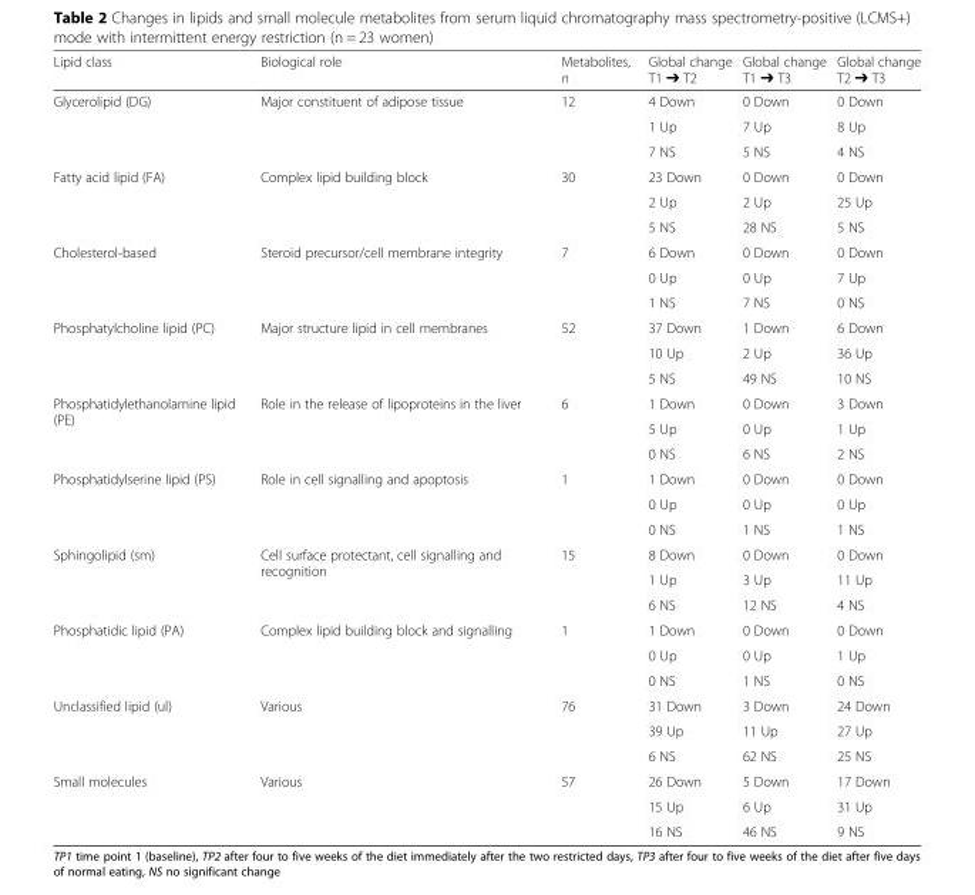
<table><thead><tr><td>Lipid class</td><td>Biological role</td><td>Metabolites, n</td><td>Global change T1 ➔ T2</td><td>Global change T1 ➔ T3</td><td>Global change T2 ➔ T3</td></tr></thead><tbody><tr><td rowspan="3">Glycerolipid (DG)</td><td rowspan="3">Major constituent of adipose tissue</td><td rowspan="3">12</td><td>4 Down</td><td>0 Down</td><td>0 Down</td></tr><tr><td>1 Up</td><td>7 Up</td><td>8 Up</td></tr><tr><td>7 NS</td><td>5 NS</td><td>4 NS</td></tr><tr><td rowspan="3">Fatty acid lipid (FA)</td><td rowspan="3">Complex lipid building block</td><td rowspan="3">30</td><td>23 Down</td><td>0 Down</td><td>0 Down</td></tr><tr><td>2 Up</td><td>2 Up</td><td>25 Up</td></tr><tr><td>5 NS</td><td>28 NS</td><td>5 NS</td></tr><tr><td rowspan="3">Cholesterol-based</td><td rowspan="3">Steroid precursor/cell membrane integrity</td><td rowspan="3">7</td><td>6 Down</td><td>0 Down</td><td>0 Down</td></tr><tr><td>0 Up</td><td>0 Up</td><td>7 Up</td></tr><tr><td>1 NS</td><td>7 NS</td><td>0 NS</td></tr><tr><td rowspan="3">Phosphatylcholine lipid (PC)</td><td rowspan="3">Major structure lipid in cell membranes</td><td rowspan="3">52</td><td>37 Down</td><td>1 Down</td><td>6 Down</td></tr><tr><td>10 Up</td><td>2 Up</td><td>36 Up</td></tr><tr><td>5 NS</td><td>49 NS</td><td>10 NS</td></tr><tr><td rowspan="3">Phosphatidylethanolamine lipid (PE)</td><td rowspan="3">Role in the release of lipoproteins in the liver</td><td rowspan="3">6</td><td>1 Down</td><td>0 Down</td><td>3 Down</td></tr><tr><td>5 Up</td><td>0 Up</td><td>1 Up</td></tr><tr><td>0 NS</td><td>6 NS</td><td>2 NS</td></tr><tr><td rowspan="3">Phosphatidylserine lipid (PS)</td><td rowspan="3">Role in cell signalling and apoptosis</td><td rowspan="3">1</td><td>1 Down</td><td>0 Down</td><td>0 Down</td></tr><tr><td>0 Up</td><td>0 Up</td><td>0 Up</td></tr><tr><td>0 NS</td><td>1 NS</td><td>1 NS</td></tr><tr><td rowspan="3">Sphingolipid (sm)</td><td rowspan="3">Cell surface protectant, cell signalling and recognition</td><td rowspan="3">15</td><td>8 Down</td><td>0 Down</td><td>0 Down</td></tr><tr><td>1 Up</td><td>3 Up</td><td>11 Up</td></tr><tr><td>6 NS</td><td>12 NS</td><td>4 NS</td></tr><tr><td rowspan="3">Phosphatidic lipid (PA)</td><td rowspan="3">Complex lipid building block and signalling</td><td rowspan="3">1</td><td>1 Down</td><td>0 Down</td><td>0 Down</td></tr><tr><td>0 Up</td><td>0 Up</td><td>1 Up</td></tr><tr><td>0 NS</td><td>1 NS</td><td>0 NS</td></tr><tr><td rowspan="3">Unclassified lipid (ul)</td><td rowspan="3">Various</td><td rowspan="3">76</td><td>31 Down</td><td>3 Down</td><td>24 Down</td></tr><tr><td>39 Up</td><td>11 Up</td><td>27 Up</td></tr><tr><td>6 NS</td><td>62 NS</td><td>25 NS</td></tr><tr><td rowspan="3">Small molecules</td><td rowspan="3">Various</td><td rowspan="3">57</td><td>26 Down</td><td>5 Down</td><td>17 Down</td></tr><tr><td>15 Up</td><td>6 Up</td><td>31 Up</td></tr><tr><td>16 NS</td><td>46 NS</td><td>9 NS</td></tr></tbody></table>